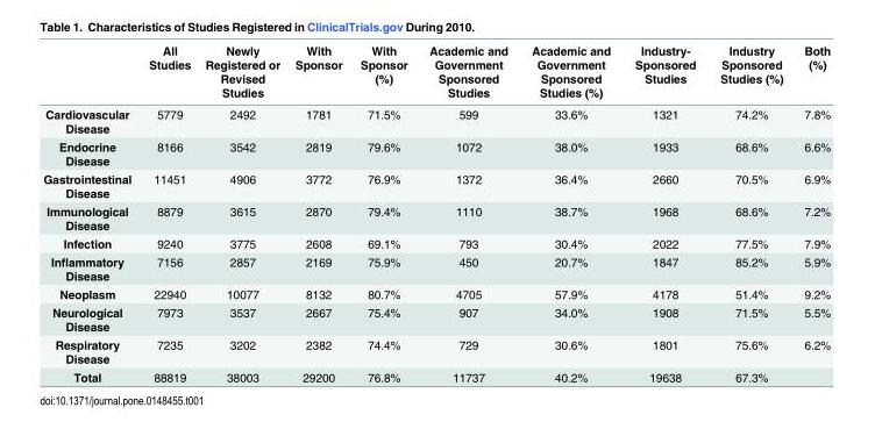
<table><thead><tr><td></td><td>All Studies</td><td>Newly Registered or Revised Studies</td><td>With Sponsor</td><td>With Sponsor (%)</td><td>Academic and Government Sponsored Studies</td><td>Academic and Government Sponsored Studies (%)</td><td>Industry- Sponsored Studies</td><td>Industry Sponsored Studies (%)</td><td>Both (%)</td></tr></thead><tbody><tr><td>Cardiovascular Disease</td><td>5779</td><td>2492</td><td>1781</td><td>71.5%</td><td>599</td><td>33.6%</td><td>1321</td><td>74.2%</td><td>7.8%</td></tr><tr><td>Endocrine Disease</td><td>8166</td><td>3542</td><td>2819</td><td>79.6%</td><td>1072</td><td>38.0%</td><td>1933</td><td>68.6%</td><td>6.6%</td></tr><tr><td>Gastrointestinal Disease</td><td>11451</td><td>4906</td><td>3772</td><td>76.9%</td><td>1372</td><td>36.4%</td><td>2660</td><td>70.5%</td><td>6.9%</td></tr><tr><td>Immunological Disease</td><td>8879</td><td>3615</td><td>2870</td><td>79.4%</td><td>1110</td><td>38.7%</td><td>1968</td><td>68.6%</td><td>7.2%</td></tr><tr><td>Infection</td><td>9240</td><td>3775</td><td>2608</td><td>69.1%</td><td>793</td><td>30.4%</td><td>2022</td><td>77.5%</td><td>7.9%</td></tr><tr><td>Inflammatory Disease</td><td>7156</td><td>2857</td><td>2169</td><td>75.9%</td><td>450</td><td>20.7%</td><td>1847</td><td>85.2%</td><td>5.9%</td></tr><tr><td>Neoplasm</td><td>22940</td><td>10077</td><td>8132</td><td>80.7%</td><td>4705</td><td>57.9%</td><td>4178</td><td>51.4%</td><td>9.2%</td></tr><tr><td>Neurological Disease</td><td>7973</td><td>3537</td><td>2667</td><td>75.4%</td><td>907</td><td>34.0%</td><td>1908</td><td>71.5%</td><td>5.5%</td></tr><tr><td>Respiratory Disease</td><td>7235</td><td>3202</td><td>2382</td><td>74.4%</td><td>729</td><td>30.6%</td><td>1801</td><td>75.6%</td><td>6.2%</td></tr><tr><td>Total</td><td>88819</td><td>38003</td><td>29200</td><td>76.8%</td><td>11737</td><td>40.2%</td><td>19638</td><td>67.3%</td><td></td></tr></tbody></table>